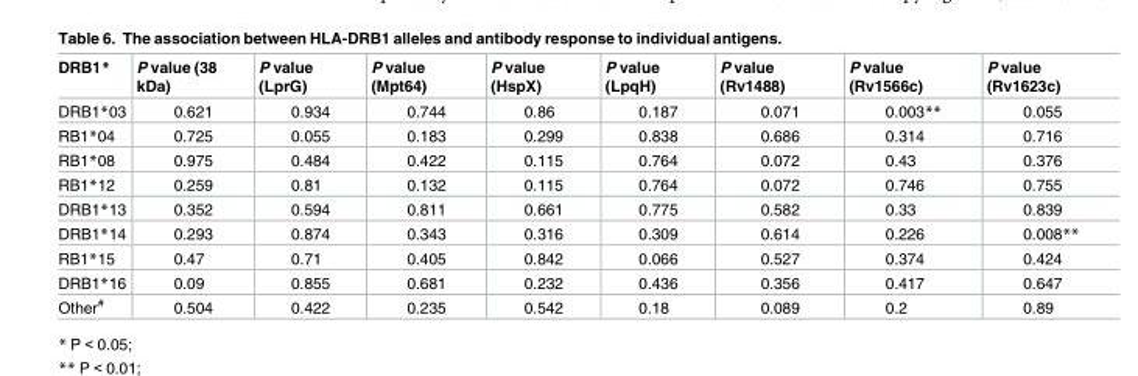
<table><thead><tr><td>DRB1*</td><td>P value (38 kDa)</td><td>P value (LprG)</td><td>P value (Mpt64)</td><td>P value (HspX)</td><td>P value (LpqH)</td><td>P value (Rv1488)</td><td>P value (Rv1566c)</td><td>P value (Rv1623c)</td></tr></thead><tbody><tr><td>DRB1*03</td><td>0.621</td><td>0.934</td><td>0.744</td><td>0.86</td><td>0.187</td><td>0.071</td><td>0.003**</td><td>0.055</td></tr><tr><td>RB1*04</td><td>0.725</td><td>0.055</td><td>0.183</td><td>0.299</td><td>0.838</td><td>0.686</td><td>0.314</td><td>0.716</td></tr><tr><td>RB1*08</td><td>0.975</td><td>0.484</td><td>0.422</td><td>0.115</td><td>0.764</td><td>0.072</td><td>0.43</td><td>0.376</td></tr><tr><td>RB1*12</td><td>0.259</td><td>0.81</td><td>0.132</td><td>0.115</td><td>0.764</td><td>0.072</td><td>0.746</td><td>0.755</td></tr><tr><td>DRB1*13</td><td>0.352</td><td>0.594</td><td>0.811</td><td>0.661</td><td>0.775</td><td>0.582</td><td>0.33</td><td>0.839</td></tr><tr><td>DRB1*14</td><td>0.293</td><td>0.874</td><td>0.343</td><td>0.316</td><td>0.309</td><td>0.614</td><td>0.226</td><td>0.008**</td></tr><tr><td>RB1*15</td><td>0.47</td><td>0.71</td><td>0.405</td><td>0.842</td><td>0.066</td><td>0.527</td><td>0.374</td><td>0.424</td></tr><tr><td>DRB1*16</td><td>0.09</td><td>0.855</td><td>0.681</td><td>0.232</td><td>0.436</td><td>0.356</td><td>0.417</td><td>0.647</td></tr><tr><td>Other<sup>#</sup></td><td>0.504</td><td>0.422</td><td>0.235</td><td>0.542</td><td>0.18</td><td>0.089</td><td>0.2</td><td>0.89</td></tr></tbody></table>